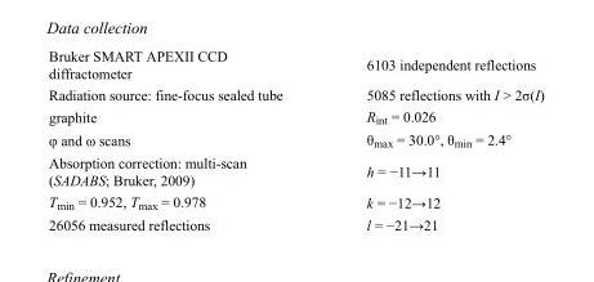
<table><tbody><tr><td>Bruker SMART APEXII CCD diffractometer</td><td>6103 independent reflections</td></tr><tr><td>Radiation source: fine-focus sealed tube</td><td>5085 reflections with I &gt; 2σ(I)</td></tr><tr><td>graphite</td><td>R<sub>int</sub> = 0.026</td></tr><tr><td>φ and ω scans</td><td>θ<sub>max</sub> = 30.0°, θ<sub>min</sub> = 2.4°</td></tr><tr><td>Absorption correction: multi-scan (SADABS; Bruker, 2009)</td><td>h = −11→11</td></tr><tr><td>T<sub>min</sub> = 0.952, T<sub>max</sub> = 0.978</td><td>k = −12→12</td></tr><tr><td>26056 measured reflections</td><td>l = −21→21</td></tr></tbody></table>